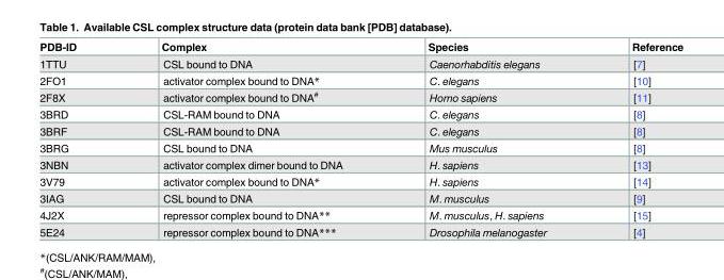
<table><thead><tr><td>PDB-ID</td><td>Complex</td><td>Species</td><td>Reference</td></tr></thead><tbody><tr><td>1TTU</td><td>CSL bound to DNA</td><td>Caenorhabditis elegans</td><td>[7]</td></tr><tr><td>2FO1</td><td>activator complex bound to DNA*</td><td>C. elegans</td><td>[10]</td></tr><tr><td>2F8X</td><td>activator complex bound to DNA<sup>#</sup></td><td>Homo sapiens</td><td>[11]</td></tr><tr><td>3BRD</td><td>CSL-RAM bound to DNA</td><td>C. elegans</td><td>[8]</td></tr><tr><td>3BRF</td><td>CSL-RAM bound to DNA</td><td>C. elegans</td><td>[8]</td></tr><tr><td>3BRG</td><td>CSL bound to DNA</td><td>Mus musculus</td><td>[8]</td></tr><tr><td>3NBN</td><td>activator complex dimer bound to DNA</td><td>H. sapiens</td><td>[13]</td></tr><tr><td>3V79</td><td>activator complex bound to DNA*</td><td>H. sapiens</td><td>[14]</td></tr><tr><td>3IAG</td><td>CSL bound to DNA</td><td>M. musculus</td><td>[9]</td></tr><tr><td>4J2X</td><td>repressor complex bound to DNA**</td><td>M. musculus, H. sapiens</td><td>[15]</td></tr><tr><td>5E24</td><td>repressor complex bound to DNA***</td><td>Drosophila melanogaster</td><td>[4]</td></tr></tbody></table>